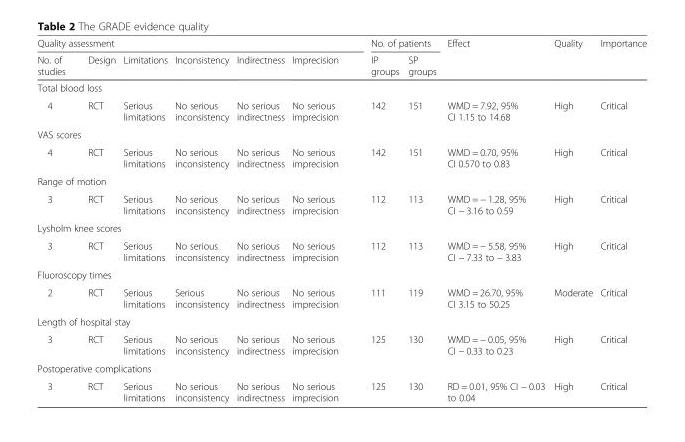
<table><thead><tr><td colspan="6">Quality assessment</td><td colspan="2">No. of patients</td><td rowspan="2">Effect</td><td rowspan="2">Quality</td><td rowspan="2">Importance</td></tr><tr><td>No. of studies</td><td>Design</td><td>Limitations</td><td>Inconsistency</td><td>Indirectness</td><td>Imprecision</td><td>IP groups</td><td>SP groups</td></tr></thead><tbody><tr><td colspan="11">Total blood loss</td></tr><tr><td>4</td><td>RCT</td><td>Serious limitations</td><td>No serious inconsistency</td><td>No serious indirectness</td><td>No serious imprecision</td><td>142</td><td>151</td><td>WMD = 7.92, 95% CI 1.15 to 14.68</td><td>High</td><td>Critical</td></tr><tr><td colspan="11">VAS scores</td></tr><tr><td>4</td><td>RCT</td><td>Serious limitations</td><td>No serious inconsistency</td><td>No serious indirectness</td><td>No serious imprecision</td><td>142</td><td>151</td><td>WMD = 0.70, 95% CI 0.570 to 0.83</td><td>High</td><td>Critical</td></tr><tr><td colspan="11">Range of motion</td></tr><tr><td>3</td><td>RCT</td><td>Serious limitations</td><td>No serious inconsistency</td><td>No serious indirectness</td><td>No serious imprecision</td><td>112</td><td>113</td><td>WMD = − 1.28, 95% CI − 3.16 to 0.59</td><td>High</td><td>Critical</td></tr><tr><td colspan="11">Lysholm knee scores</td></tr><tr><td>3</td><td>RCT</td><td>Serious limitations</td><td>No serious inconsistency</td><td>No serious indirectness</td><td>No serious imprecision</td><td>112</td><td>113</td><td>WMD = − 5.58, 95% CI − 7.33 to − 3.83</td><td>High</td><td>Critical</td></tr><tr><td colspan="11">Fluoroscopy times</td></tr><tr><td>2</td><td>RCT</td><td>Serious limitations</td><td>Serious inconsistency</td><td>No serious indirectness</td><td>No serious imprecision</td><td>111</td><td>119</td><td>WMD = 26.70, 95% CI 3.15 to 50.25</td><td>Moderate</td><td>Critical</td></tr><tr><td colspan="11">Length of hospital stay</td></tr><tr><td>3</td><td>RCT</td><td>Serious limitations</td><td>No serious inconsistency</td><td>No serious indirectness</td><td>No serious imprecision</td><td>125</td><td>130</td><td>WMD = − 0.05, 95% CI − 0.33 to 0.23</td><td>High</td><td>Critical</td></tr><tr><td colspan="11">Postoperative complications</td></tr><tr><td>3</td><td>RCT</td><td>Serious limitations</td><td>No serious inconsistency</td><td>No serious indirectness</td><td>No serious imprecision</td><td>125</td><td>130</td><td>RD = 0.01, 95% CI − 0.03 to 0.04</td><td>High</td><td>Critical</td></tr></tbody></table>